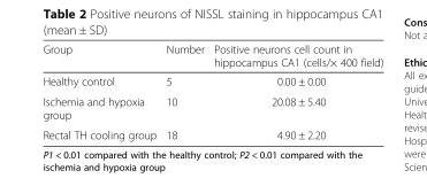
<table><thead><tr><td>Group</td><td>Number</td><td>Positive neurons cell count in hippocampus CA1 (cells/× 400 field)</td></tr></thead><tbody><tr><td>Healthy control</td><td>5</td><td>0.00 ± 0.00</td></tr><tr><td>Ischemia and hypoxia group</td><td>10</td><td>20.08 ± 5.40</td></tr><tr><td>Rectal TH cooling group</td><td>18</td><td>4.90 ± 2.20</td></tr></tbody></table>